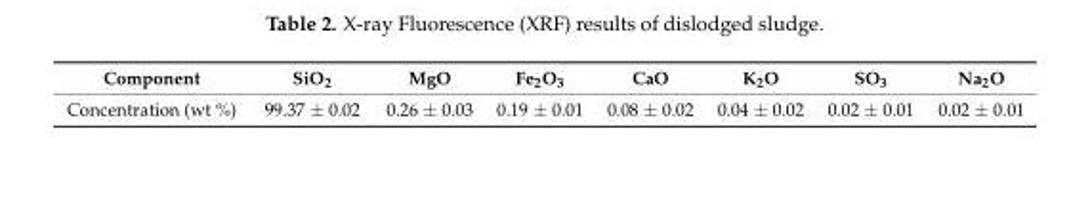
<table><thead><tr><td>Component</td><td>SiO<sub>2</sub></td><td>MgO</td><td>Fe<sub>2</sub>O<sub>3</sub></td><td>CaO</td><td>K<sub>2</sub>O</td><td>SO<sub>3</sub></td><td>Na<sub>2</sub>O</td></tr></thead><tbody><tr><td>Concentration (wt %)</td><td>99.37 ± 0.02</td><td>0.26 ± 0.03</td><td>0.19 ± 0.01</td><td>0.08 ± 0.02</td><td>0.04 ± 0.02</td><td>0.02 ± 0.01</td><td>0.02 ± 0.01</td></tr></tbody></table>